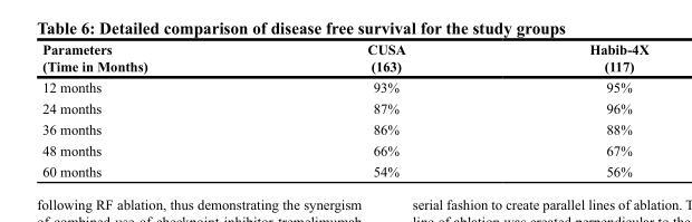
<table><thead><tr><td>Parameters (Time in Months)</td><td>CUSA (163)</td><td>Habib-4X (117)</td></tr></thead><tbody><tr><td>12 months</td><td>93%</td><td>95%</td></tr><tr><td>24 months</td><td>87%</td><td>96%</td></tr><tr><td>36 months</td><td>86%</td><td>88%</td></tr><tr><td>48 months</td><td>66%</td><td>67%</td></tr><tr><td>60 months</td><td>54%</td><td>56%</td></tr></tbody></table>